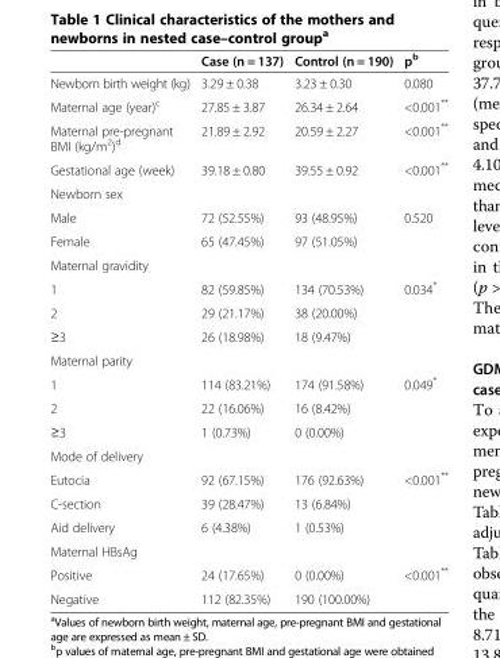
<table><thead><tr><td></td><td>Case (n = 137)</td><td>Control (n = 190)</td><td>p<sup>b</sup></td></tr></thead><tbody><tr><td>Newborn birth weight (kg)</td><td>3.29 ± 0.38</td><td>3.23 ± 0.30</td><td>0.080</td></tr><tr><td>Maternal age (year)<sup>c</sup></td><td>27.85 ± 3.87</td><td>26.34 ± 2.64</td><td>&lt;0.001**</td></tr><tr><td>Maternal pre-pregnant BMI (kg/m<sup>2</sup>)<sup>d</sup></td><td>21.89 ± 2.92</td><td>20.59 ± 2.27</td><td>&lt;0.001**</td></tr><tr><td>Gestational age (week)</td><td>39.18 ± 0.80</td><td>39.55 ± 0.92</td><td>&lt;0.001**</td></tr><tr><td colspan="4">Newborn sex</td></tr><tr><td>Male</td><td>72 (52.55%)</td><td>93 (48.95%)</td><td rowspan="2">0.520</td></tr><tr><td>Female</td><td>65 (47.45%)</td><td>97 (51.05%)</td></tr><tr><td colspan="4">Maternal gravidity</td></tr><tr><td>1</td><td>82 (59.85%)</td><td>134 (70.53%)</td><td rowspan="3">0.034*</td></tr><tr><td>2</td><td>29 (21.17%)</td><td>38 (20.00%)</td></tr><tr><td>≥3</td><td>26 (18.98%)</td><td>18 (9.47%)</td></tr><tr><td colspan="4">Maternal parity</td></tr><tr><td>1</td><td>114 (83.21%)</td><td>174 (91.58%)</td><td rowspan="3">0.049*</td></tr><tr><td>2</td><td>22 (16.06%)</td><td>16 (8.42%)</td></tr><tr><td>≥3</td><td>1 (0.73%)</td><td>0 (0.00%)</td></tr><tr><td colspan="4">Mode of delivery</td></tr><tr><td>Eutocia</td><td>92 (67.15%)</td><td>176 (92.63%)</td><td rowspan="3">&lt;0.001**</td></tr><tr><td>C-section</td><td>39 (28.47%)</td><td>13 (6.84%)</td></tr><tr><td>Aid delivery</td><td>6 (4.38%)</td><td>1 (0.53%)</td></tr><tr><td colspan="4">Maternal HBsAg</td></tr><tr><td>Positive</td><td>24 (17.65%)</td><td>0 (0.00%)</td><td rowspan="2">&lt;0.001**</td></tr><tr><td>Negative</td><td>112 (82.35%)</td><td>190 (100.00%)</td></tr></tbody></table>